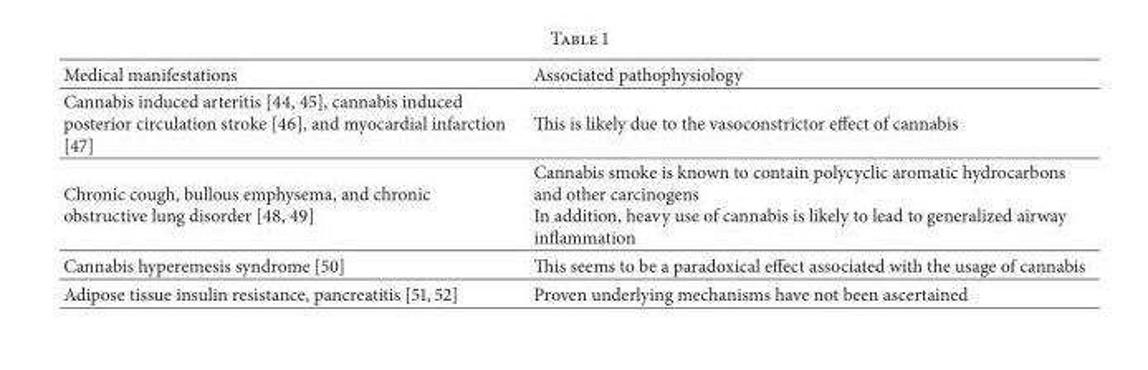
<table><thead><tr><td>Medical manifestations</td><td>Associated pathophysiology</td></tr></thead><tbody><tr><td>Cannabis induced arteritis [44, 45], cannabis induced posterior circulation stroke [46], and myocardial infarction [47]</td><td>This is likely due to the vasoconstrictor effect of cannabis</td></tr><tr><td>Chronic cough, bullous emphysema, and chronic obstructive lung disorder [48, 49]</td><td>Cannabis smoke is known to contain polycyclic aromatic hydrocarbons and other carcinogens In addition, heavy use of cannabis is likely to lead to generalized airway inflammation</td></tr><tr><td>Cannabis hyperemesis syndrome [50]</td><td>This seems to be a paradoxical effect associated with the usage of cannabis</td></tr><tr><td>Adipose tissue insulin resistance, pancreatitis [51, 52]</td><td>Proven underlying mechanisms have not been ascertained</td></tr></tbody></table>